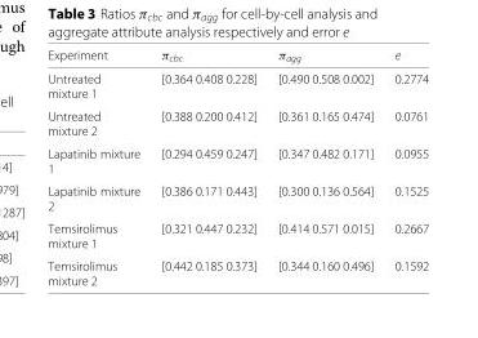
<table><thead><tr><td>Experiment</td><td>π<sub>cbc</sub></td><td>π<sub>agg</sub></td><td>e</td></tr></thead><tbody><tr><td>Untreated mixture 1</td><td>[0.364 0.408 0.228]</td><td>[0.490 0.508 0.002]</td><td>0.2774</td></tr><tr><td>Untreated mixture 2</td><td>[0.388 0.200 0.412]</td><td>[0.361 0.165 0.474]</td><td>0.0761</td></tr><tr><td>Lapatinib mixture 1</td><td>[0.294 0.459 0.247]</td><td>[0.347 0.482 0.171]</td><td>0.0955</td></tr><tr><td>Lapatinib mixture 2</td><td>[0.386 0.171 0.443]</td><td>[0.300 0.136 0.564]</td><td>0.1525</td></tr><tr><td>Temsirolimus mixture 1</td><td>[0.321 0.447 0.232]</td><td>[0.414 0.571 0.015]</td><td>0.2667</td></tr><tr><td>Temsirolimus mixture 2</td><td>[0.442 0.185 0.373]</td><td>[0.344 0.160 0.496]</td><td>0.1592</td></tr></tbody></table>